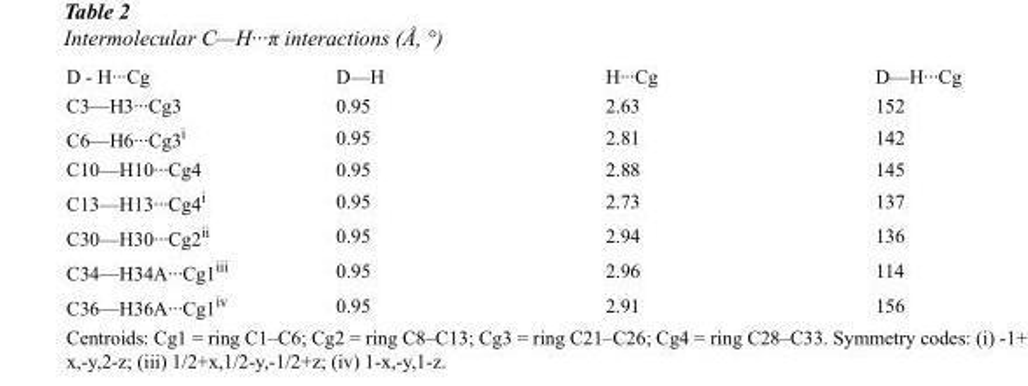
<table><tbody><tr><td>D - H···Cg</td><td>D—H</td><td>H···Cg</td><td>D—H···Cg</td></tr><tr><td>C3—H3···Cg3</td><td>0.95</td><td>2.63</td><td>152</td></tr><tr><td>C6—H6···Cg3<sup>i</sup></td><td>0.95</td><td>2.81</td><td>142</td></tr><tr><td>C10—H10···Cg4</td><td>0.95</td><td>2.88</td><td>145</td></tr><tr><td>C13—H13···Cg4<sup>i</sup></td><td>0.95</td><td>2.73</td><td>137</td></tr><tr><td>C30—H30···Cg2<sup>ii</sup></td><td>0.95</td><td>2.94</td><td>136</td></tr><tr><td>C34—H34A···Cg1<sup>iii</sup></td><td>0.95</td><td>2.96</td><td>114</td></tr><tr><td>C36—H36A···Cg1<sup>iv</sup></td><td>0.95</td><td>2.91</td><td>156</td></tr></tbody></table>